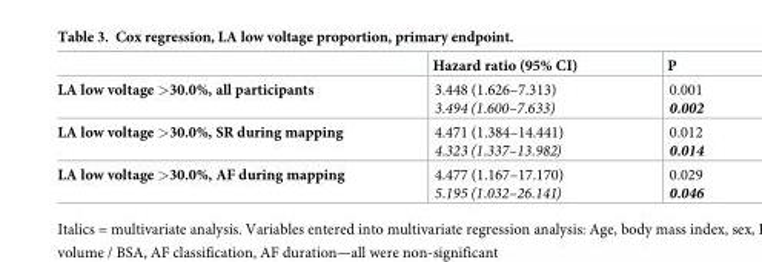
<table><thead><tr><td></td><td>Hazard ratio (95% CI)</td><td>P</td></tr></thead><tbody><tr><td>LA low voltage &gt;30.0%, all participants</td><td>3.448 (1.626–7.313) 3.494 (1.600–7.633)</td><td>0.001 0.002</td></tr><tr><td>LA low voltage &gt;30.0%, SR during mapping</td><td>4.471 (1.384–14.441) 4.323 (1.337–13.982)</td><td>0.012 0.014</td></tr><tr><td>LA low voltage &gt;30.0%, AF during mapping</td><td>4.477 (1.167–17.170) 5.195 (1.032–26.141)</td><td>0.029 0.046</td></tr></tbody></table>